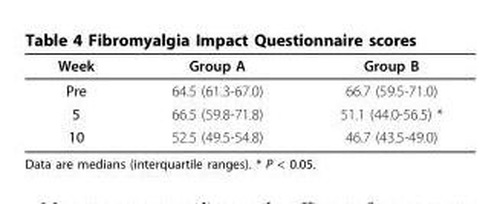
<table><thead><tr><td>Week</td><td>Group A</td><td>Group B</td></tr></thead><tbody><tr><td>Pre</td><td>64.5 (61.3-67.0)</td><td>66.7 (59.5-71.0)</td></tr><tr><td>5</td><td>66.5 (59.8-71.8)</td><td>51.1 (44.0-56.5) *</td></tr><tr><td>10</td><td>52.5 (49.5-54.8)</td><td>46.7 (43.5-49.0)</td></tr></tbody></table>